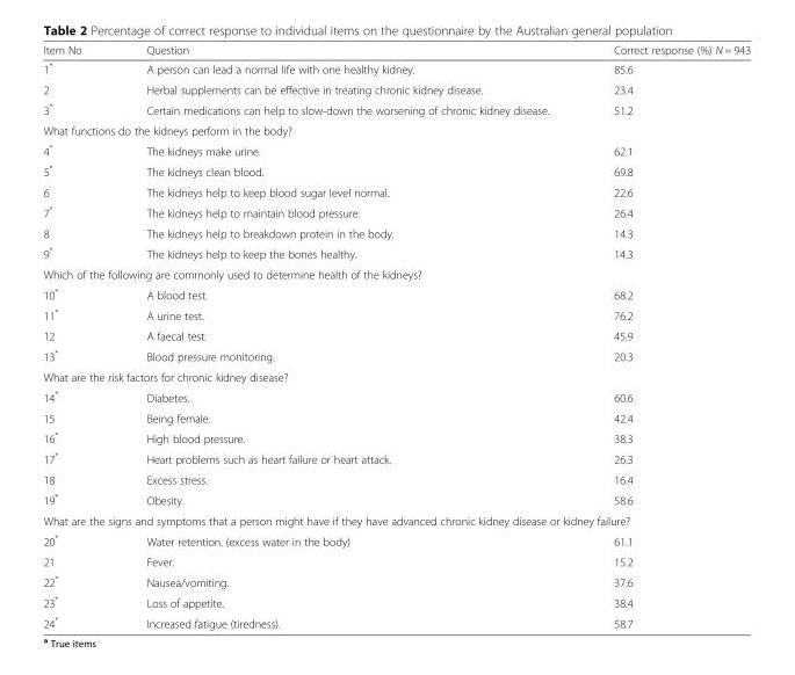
<table><thead><tr><td>Item No</td><td>Question</td><td>Correct response (%) N = 943</td></tr></thead><tbody><tr><td>1*</td><td>A person can lead a normal life with one healthy kidney.</td><td>85.6</td></tr><tr><td>2</td><td>Herbal supplements can be effective in treating chronic kidney disease.</td><td>23.4</td></tr><tr><td>3*</td><td>Certain medications can help to slow-down the worsening of chronic kidney disease.</td><td>51.2</td></tr><tr><td colspan="3">What functions do the kidneys perform in the body?</td></tr><tr><td>4*</td><td>The kidneys make urine.</td><td>62.1</td></tr><tr><td>5*</td><td>The kidneys clean blood.</td><td>69.8</td></tr><tr><td>6</td><td>The kidneys help to keep blood sugar level normal.</td><td>22.6</td></tr><tr><td>7*</td><td>The kidneys help to maintain blood pressure.</td><td>26.4</td></tr><tr><td>8</td><td>The kidneys help to breakdown protein in the body.</td><td>14.3</td></tr><tr><td>9*</td><td>The kidneys help to keep the bones healthy.</td><td>14.3</td></tr><tr><td colspan="3">Which of the following are commonly used to determine health of the kidneys?</td></tr><tr><td>10*</td><td>A blood test.</td><td>68.2</td></tr><tr><td>11*</td><td>A urine test.</td><td>76.2</td></tr><tr><td>12</td><td>A faecal test.</td><td>45.9</td></tr><tr><td>13*</td><td>Blood pressure monitoring.</td><td>20.3</td></tr><tr><td colspan="3">What are the risk factors for chronic kidney disease?</td></tr><tr><td>14*</td><td>Diabetes.</td><td>60.6</td></tr><tr><td>15</td><td>Being female.</td><td>42.4</td></tr><tr><td>16*</td><td>High blood pressure.</td><td>38.3</td></tr><tr><td>17*</td><td>Heart problems such as heart failure or heart attack.</td><td>26.3</td></tr><tr><td>18</td><td>Excess stress.</td><td>16.4</td></tr><tr><td>19*</td><td>Obesity.</td><td>58.6</td></tr><tr><td colspan="3">What are the signs and symptoms that a person might have if they have advanced chronic kidney disease or kidney failure?</td></tr><tr><td>20*</td><td>Water retention. (excess water in the body)</td><td>61.1</td></tr><tr><td>21</td><td>Fever.</td><td>15.2</td></tr><tr><td>22*</td><td>Nausea/vomiting.</td><td>37.6</td></tr><tr><td>23*</td><td>Loss of appetite.</td><td>38.4</td></tr><tr><td>24*</td><td>Increased fatigue (tiredness).</td><td>58.7</td></tr></tbody></table>